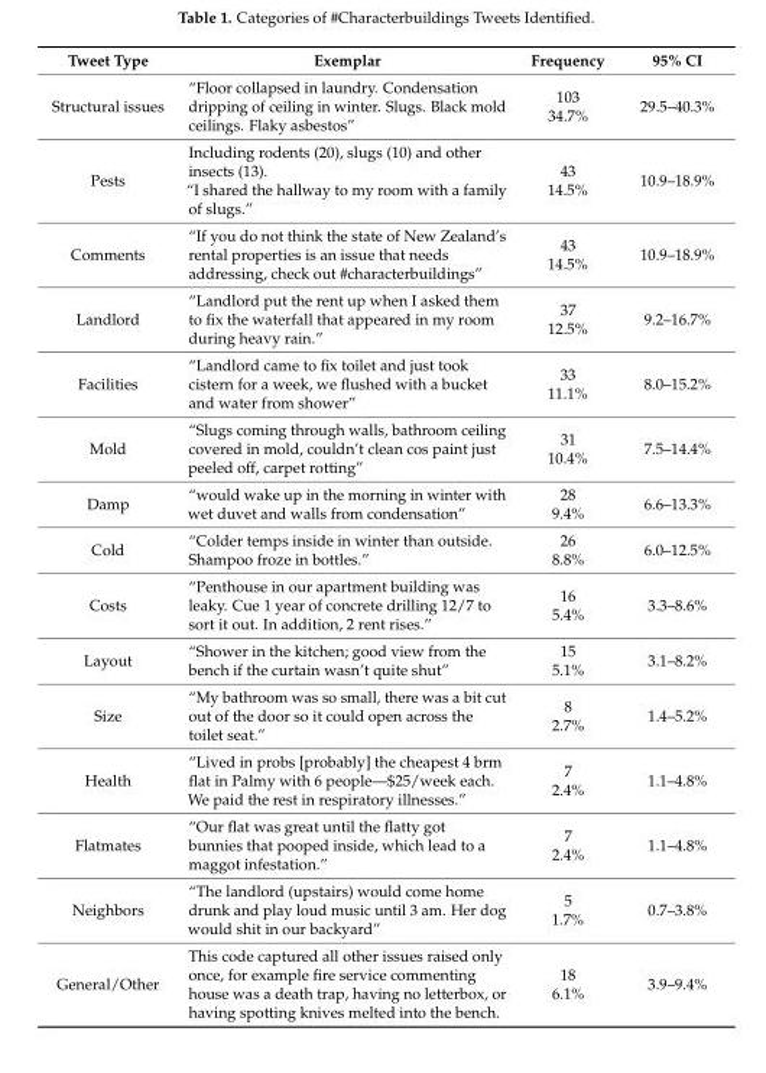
<table><thead><tr><td>Tweet Type</td><td>Exemplar</td><td>Frequency</td><td>95% CI</td></tr></thead><tbody><tr><td>Structural issues</td><td>“Floor collapsed in laundry. Condensation dripping of ceiling in winter. Slugs. Black mold ceilings. Flaky asbestos”</td><td>103 34.7%</td><td>29.5–40.3%</td></tr><tr><td>Pests</td><td>Including rodents (20), slugs (10) and other insects (13). “I shared the hallway to my room with a family of slugs.”</td><td>43 14.5%</td><td>10.9–18.9%</td></tr><tr><td>Comments</td><td>“If you do not think the state of New Zealand’s rental properties is an issue that needs addressing, check out #characterbuildings”</td><td>43 14.5%</td><td>10.9–18.9%</td></tr><tr><td>Landlord</td><td>“Landlord put the rent up when I asked them to fix the waterfall that appeared in my room during heavy rain.”</td><td>37 12.5%</td><td>9.2–16.7%</td></tr><tr><td>Facilities</td><td>“Landlord came to fix toilet and just took cistern for a week, we flushed with a bucket and water from shower”</td><td>33 11.1%</td><td>8.0–15.2%</td></tr><tr><td>Mold</td><td>“Slugs coming through walls, bathroom ceiling covered in mold, couldn’t clean cos paint just peeled off, carpet rotting”</td><td>31 10.4%</td><td>7.5–14.4%</td></tr><tr><td>Damp</td><td>“would wake up in the morning in winter with wet duvet and walls from condensation”</td><td>28 9.4%</td><td>6.6–13.3%</td></tr><tr><td>Cold</td><td>“Colder temps inside in winter than outside. Shampoo froze in bottles.”</td><td>26 8.8%</td><td>6.0–12.5%</td></tr><tr><td>Costs</td><td>“Penthouse in our apartment building was leaky. Cue 1 year of concrete drilling 12/7 to sort it out. In addition, 2 rent rises.”</td><td>16 5.4%</td><td>3.3–8.6%</td></tr><tr><td>Layout</td><td>“Shower in the kitchen; good view from the bench if the curtain wasn’t quite shut”</td><td>15 5.1%</td><td>3.1–8.2%</td></tr><tr><td>Size</td><td>“My bathroom was so small, there was a bit cut out of the door so it could open across the toilet seat.”</td><td>8 2.7%</td><td>1.4–5.2%</td></tr><tr><td>Health</td><td>“Lived in probs [probably] the cheapest 4 brm flat in Palmy with 6 people—$25/week each. We paid the rest in respiratory illnesses.”</td><td>7 2.4%</td><td>1.1–4.8%</td></tr><tr><td>Flatmates</td><td>“Our flat was great until the flatty got bunnies that pooped inside, which lead to a maggot infestation.”</td><td>7 2.4%</td><td>1.1–4.8%</td></tr><tr><td>Neighbors</td><td>“The landlord (upstairs) would come home drunk and play loud music until 3 am. Her dog would shit in our backyard”</td><td>5 1.7%</td><td>0.7–3.8%</td></tr><tr><td>General/Other</td><td>This code captured all other issues raised only once, for example fire service commenting house was a death trap, having no letterbox, or having spotting knives melted into the bench.</td><td>18 6.1%</td><td>3.9–9.4%</td></tr></tbody></table>